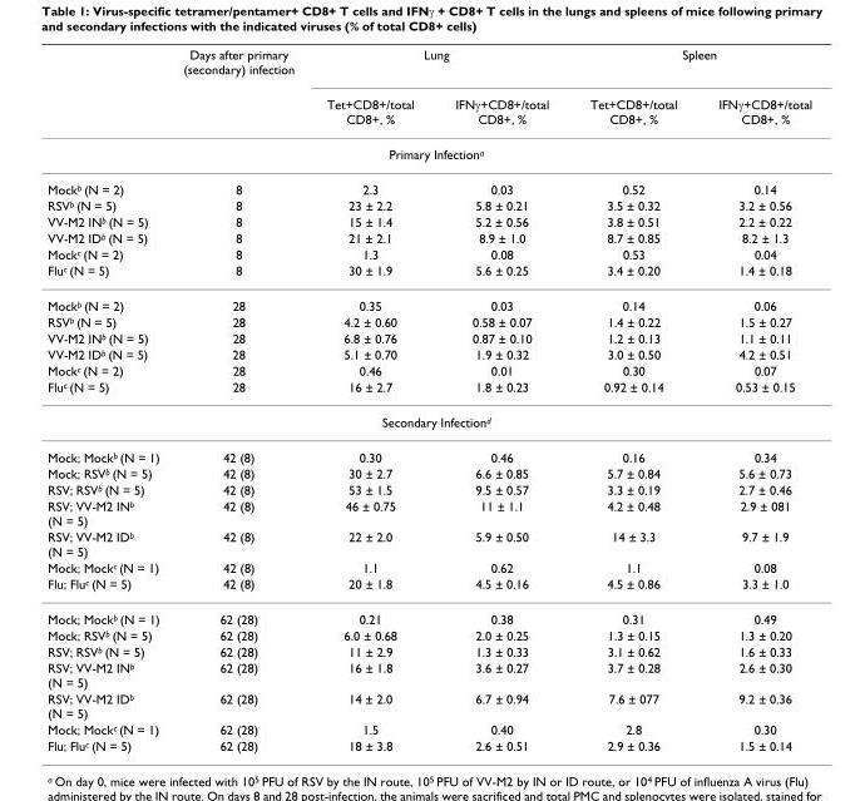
<table><thead><tr><td rowspan="2"></td><td rowspan="2">Days after primary (secondary) infection</td><td colspan="2">Lung</td><td colspan="2">Spleen</td></tr><tr><td>Tet+CD8+/total CD8+, %</td><td>IFNγ+CD8+/total CD8+, %</td><td>Tet+CD8+/total CD8+, %</td><td>IFNγ+CD8+/total CD8+, %</td></tr></thead><tbody><tr><td colspan="6">Primary Infection<sup>a</sup></td></tr><tr><td>Mock<sup>b</sup> (N = 2)</td><td>8</td><td>2.3</td><td>0.03</td><td>0.52</td><td>0.14</td></tr><tr><td>RSV<sup>b</sup> (N = 5)</td><td>8</td><td>23 ± 2.2</td><td>5.8 ± 0.21</td><td>3.5 ± 0.32</td><td>3.2 ± 0.56</td></tr><tr><td>VV-M2 IN<sup>b</sup> (N = 5)</td><td>8</td><td>15 ± 1.4</td><td>5.2 ± 0.56</td><td>3.8 ± 0.51</td><td>2.2 ± 0.22</td></tr><tr><td>VV-M2 ID<sup>b</sup> (N = 5)</td><td>8</td><td>21 ± 2.1</td><td>8.9 ± 1.0</td><td>8.7 ± 0.85</td><td>8.2 ± 1.3</td></tr><tr><td>Mock<sup>c</sup> (N = 2)</td><td>8</td><td>1.3</td><td>0.08</td><td>0.53</td><td>0.04</td></tr><tr><td>Flu<sup>c</sup> (N = 5)</td><td>8</td><td>30 ± 1.9</td><td>5.6 ± 0.25</td><td>3.4 ± 0.20</td><td>1.4 ± 0.18</td></tr><tr><td>Mock<sup>b</sup> (N = 2)</td><td>28</td><td>0.35</td><td>0.03</td><td>0.14</td><td>0.06</td></tr><tr><td>RSV<sup>b</sup> (N = 5)</td><td>28</td><td>4.2 ± 0.60</td><td>0.58 ± 0.07</td><td>1.4 ± 0.22</td><td>1.5 ± 0.27</td></tr><tr><td>VV-M2 IN<sup>b</sup> (N = 5)</td><td>28</td><td>6.8 ± 0.76</td><td>0.87 ± 0.10</td><td>1.2 ± 0.13</td><td>1.1 ± 0.11</td></tr><tr><td>VV-M2 ID<sup>b</sup> (N = 5)</td><td>28</td><td>5.1 ± 0.70</td><td>1.9 ± 0.32</td><td>3.0 ± 0.50</td><td>4.2 ± 0.51</td></tr><tr><td>Mock<sup>c</sup> (N = 2)</td><td>28</td><td>0.46</td><td>0.01</td><td>0.30</td><td>0.07</td></tr><tr><td>Flu<sup>c</sup> (N = 5)</td><td>28</td><td>16 ± 2.7</td><td>1.8 ± 0.23</td><td>0.92 ± 0.14</td><td>0.53 ± 0.15</td></tr><tr><td colspan="6">Secondary Infection<sup>d</sup></td></tr><tr><td>Mock; Mock<sup>b</sup> (N = 1)</td><td>42 (8)</td><td>0.30</td><td>0.46</td><td>0.16</td><td>0.34</td></tr><tr><td>Mock; RSV<sup>b</sup> (N = 5)</td><td>42 (8)</td><td>30 ± 2.7</td><td>6.6 ± 0.85</td><td>5.7 ± 0.84</td><td>5.6 ± 0.73</td></tr><tr><td>RSV; RSV<sup>b</sup> (N = 5)</td><td>42 (8)</td><td>53 ± 1.5</td><td>9.5 ± 0.57</td><td>3.3 ± 0.19</td><td>2.7 ± 0.46</td></tr><tr><td>RSV; VV-M2 IN<sup>b</sup> (N = 5)</td><td>42 (8)</td><td>46 ± 0.75</td><td>11 ± 1.1</td><td>4.2 ± 0.48</td><td>2.9 ± 081</td></tr><tr><td>RSV; VV-M2 ID<sup>b</sup> (N = 5)</td><td>42 (8)</td><td>22 ± 2.0</td><td>5.9 ± 0.50</td><td>14 ± 3.3</td><td>9.7 ± 1.9</td></tr><tr><td>Mock; Mock<sup>c</sup> (N = 1)</td><td>42 (8)</td><td>1.1</td><td>0.62</td><td>1.1</td><td>0.08</td></tr><tr><td>Flu; Flu<sup>c</sup> (N = 5)</td><td>42 (8)</td><td>20 ± 1.8</td><td>4.5 ± 0.16</td><td>4.5 ± 0.86</td><td>3.3 ± 1.0</td></tr><tr><td>Mock; Mock<sup>b</sup> (N = 1)</td><td>62 (28)</td><td>0.21</td><td>0.38</td><td>0.31</td><td>0.49</td></tr><tr><td>Mock; RSV<sup>b</sup> (N = 5)</td><td>62 (28)</td><td>6.0 ± 0.68</td><td>2.0 ± 0.25</td><td>1.3 ± 0.15</td><td>1.3 ± 0.20</td></tr><tr><td>RSV; RSV<sup>b</sup> (N = 5)</td><td>62 (28)</td><td>11 ± 2.9</td><td>1.3 ± 0.33</td><td>3.1 ± 0.62</td><td>1.6 ± 0.33</td></tr><tr><td>RSV; VV-M2 IN<sup>b</sup> (N = 5)</td><td>62 (28)</td><td>16 ± 1.8</td><td>3.6 ± 0.27</td><td>3.7 ± 0.28</td><td>2.6 ± 0.30</td></tr><tr><td>RSV; VV-M2 ID<sup>b</sup> (N = 5)</td><td>62 (28)</td><td>14 ± 2.0</td><td>6.7 ± 0.94</td><td>7.6 ± 077</td><td>9.2 ± 0.36</td></tr><tr><td>Mock; Mock<sup>c</sup> (N = 1)</td><td>62 (28)</td><td>1.5</td><td>0.40</td><td>2.8</td><td>0.30</td></tr><tr><td>Flu; Flu<sup>c</sup> (N = 5)</td><td>62 (28)</td><td>18 ± 3.8</td><td>2.6 ± 0.51</td><td>2.9 ± 0.36</td><td>1.5 ± 0.14</td></tr></tbody></table>